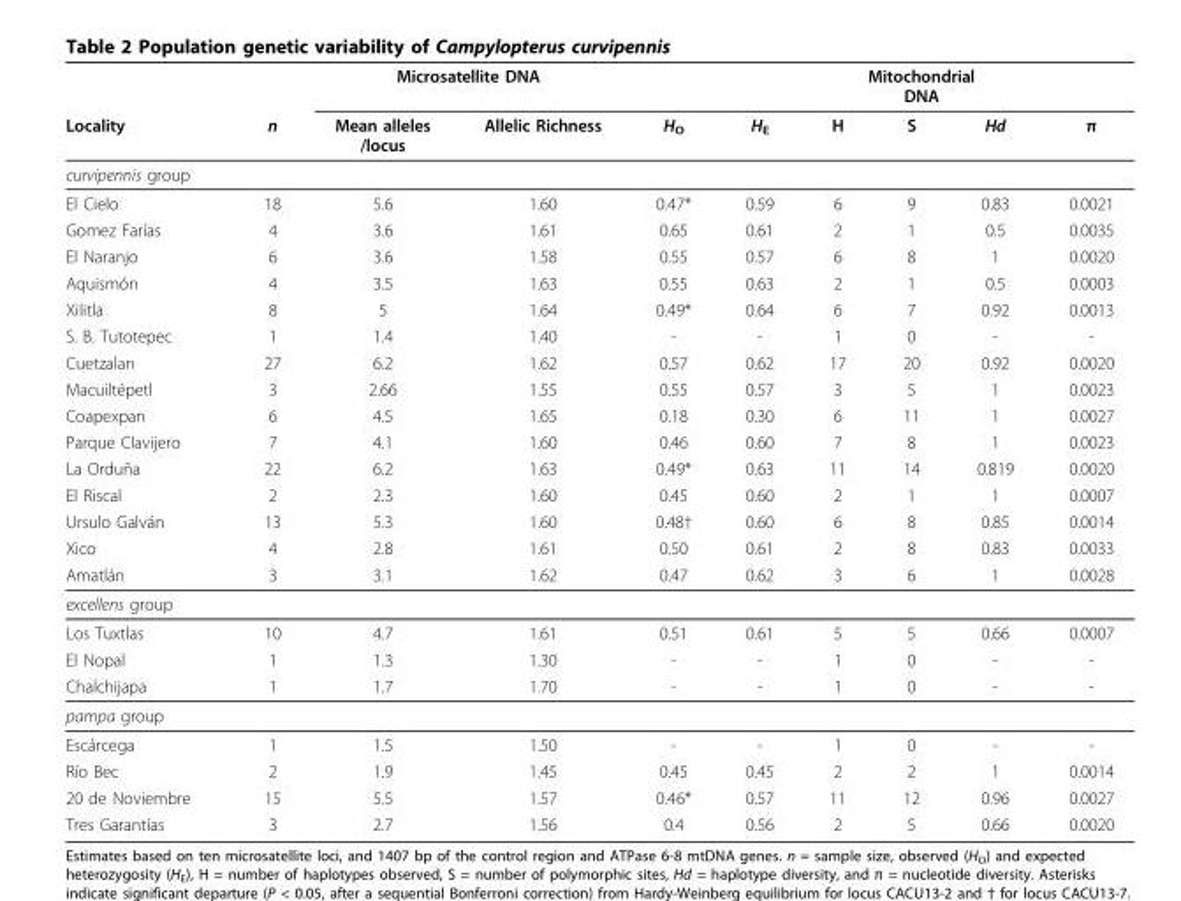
<table><thead><tr><td rowspan="2">Locality</td><td rowspan="2">n</td><td colspan="2">Microsatellite DNA</td><td rowspan="2">H<sub>O</sub></td><td rowspan="2">H<sub>E</sub></td><td colspan="3">Mitochondrial DNA</td><td rowspan="2">π</td></tr><tr><td>Mean alleles /locus</td><td>Allelic Richness</td><td>H</td><td>S</td><td>Hd</td></tr></thead><tbody><tr><td colspan="10">curvipennis group</td></tr><tr><td>El Cielo</td><td>18</td><td>5.6</td><td>1.60</td><td>0.47*</td><td>0.59</td><td>6</td><td>9</td><td>0.83</td><td>0.0021</td></tr><tr><td>Gomez Farías</td><td>4</td><td>3.6</td><td>1.61</td><td>0.65</td><td>0.61</td><td>2</td><td>1</td><td>0.5</td><td>0.0035</td></tr><tr><td>El Naranjo</td><td>6</td><td>3.6</td><td>1.58</td><td>0.55</td><td>0.57</td><td>6</td><td>8</td><td>1</td><td>0.0020</td></tr><tr><td>Aquismón</td><td>4</td><td>3.5</td><td>1.63</td><td>0.55</td><td>0.63</td><td>2</td><td>1</td><td>0.5</td><td>0.0003</td></tr><tr><td>Xilitla</td><td>8</td><td>5</td><td>1.64</td><td>0.49*</td><td>0.64</td><td>6</td><td>7</td><td>0.92</td><td>0.0013</td></tr><tr><td>S. B. Tutotepec</td><td>1</td><td>1.4</td><td>1.40</td><td>-</td><td>-</td><td>1</td><td>0</td><td>-</td><td>-</td></tr><tr><td>Cuetzalan</td><td>27</td><td>6.2</td><td>1.62</td><td>0.57</td><td>0.62</td><td>17</td><td>20</td><td>0.92</td><td>0.0020</td></tr><tr><td>Macuiltépetl</td><td>3</td><td>2.66</td><td>1.55</td><td>0.55</td><td>0.57</td><td>3</td><td>5</td><td>1</td><td>0.0023</td></tr><tr><td>Coapexpan</td><td>6</td><td>4.5</td><td>1.65</td><td>0.18</td><td>0.30</td><td>6</td><td>11</td><td>1</td><td>0.0027</td></tr><tr><td>Parque Clavijero</td><td>7</td><td>4.1</td><td>1.60</td><td>0.46</td><td>0.60</td><td>7</td><td>8</td><td>1</td><td>0.0023</td></tr><tr><td>La Orduña</td><td>22</td><td>6.2</td><td>1.63</td><td>0.49*</td><td>0.63</td><td>11</td><td>14</td><td>0.819</td><td>0.0020</td></tr><tr><td>El Riscal</td><td>2</td><td>2.3</td><td>1.60</td><td>0.45</td><td>0.60</td><td>2</td><td>1</td><td>1</td><td>0.0007</td></tr><tr><td>Ursulo Galván</td><td>13</td><td>5.3</td><td>1.60</td><td>0.48†</td><td>0.60</td><td>6</td><td>8</td><td>0.85</td><td>0.0014</td></tr><tr><td>Xico</td><td>4</td><td>2.8</td><td>1.61</td><td>0.50</td><td>0.61</td><td>2</td><td>8</td><td>0.83</td><td>0.0033</td></tr><tr><td>Amatlán</td><td>3</td><td>3.1</td><td>1.62</td><td>0.47</td><td>0.62</td><td>3</td><td>6</td><td>1</td><td>0.0028</td></tr><tr><td colspan="10">excellens group</td></tr><tr><td>Los Tuxtlas</td><td>10</td><td>4.7</td><td>1.61</td><td>0.51</td><td>0.61</td><td>5</td><td>5</td><td>0.66</td><td>0.0007</td></tr><tr><td>El Nopal</td><td>1</td><td>1.3</td><td>1.30</td><td>-</td><td>-</td><td>1</td><td>0</td><td>-</td><td>-</td></tr><tr><td>Chalchijapa</td><td>1</td><td>1.7</td><td>1.70</td><td>-</td><td>-</td><td>1</td><td>0</td><td>-</td><td>-</td></tr><tr><td colspan="10">pampa group</td></tr><tr><td>Escárcega</td><td>1</td><td>1.5</td><td>1.50</td><td>-</td><td>-</td><td>1</td><td>0</td><td>-</td><td>-</td></tr><tr><td>Río Bec</td><td>2</td><td>1.9</td><td>1.45</td><td>0.45</td><td>0.45</td><td>2</td><td>2</td><td>1</td><td>0.0014</td></tr><tr><td>20 de Noviembre</td><td>15</td><td>5.5</td><td>1.57</td><td>0.46*</td><td>0.57</td><td>11</td><td>12</td><td>0.96</td><td>0.0027</td></tr><tr><td>Tres Garantías</td><td>3</td><td>2.7</td><td>1.56</td><td>0.4</td><td>0.56</td><td>2</td><td>5</td><td>0.66</td><td>0.0020</td></tr></tbody></table>